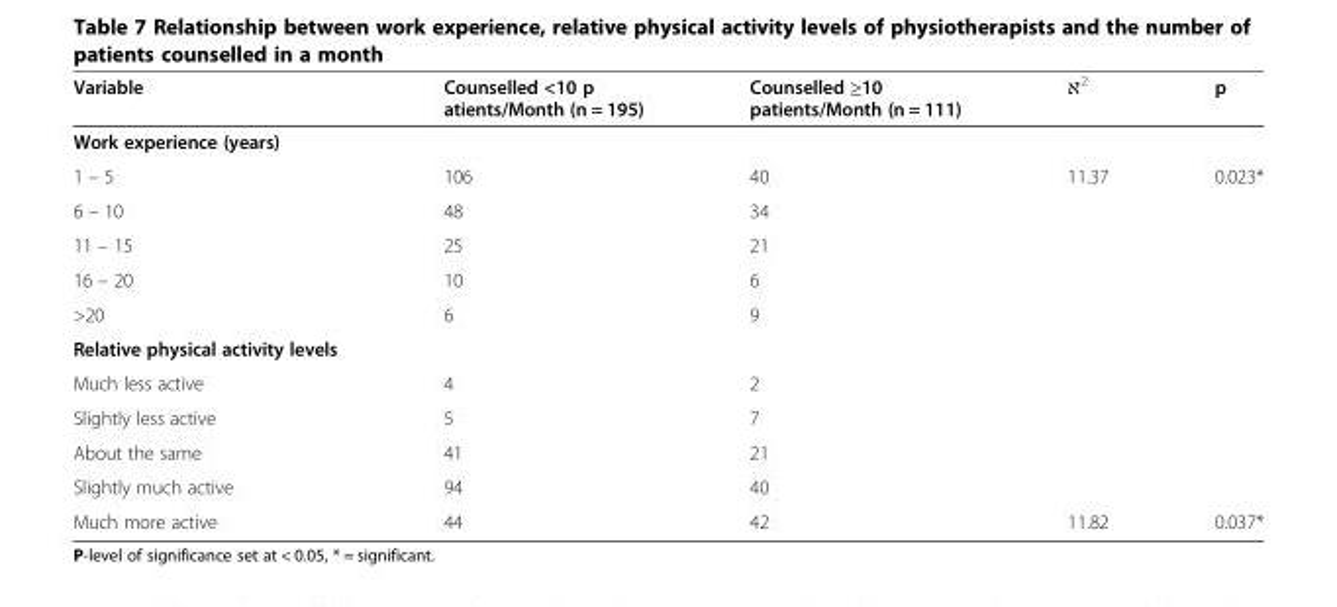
<table><thead><tr><td>Variable</td><td>Counselled &lt;10 p atients/Month (n = 195)</td><td>Counselled ≥10 patients/Month (n = 111)</td><td>ℵ<sup>2</sup></td><td>p</td></tr></thead><tbody><tr><td colspan="5">Work experience (years)</td></tr><tr><td>1 – 5</td><td>106</td><td>40</td><td>11.37</td><td>0.023*</td></tr><tr><td>6 – 10</td><td>48</td><td>34</td><td></td><td></td></tr><tr><td>11 – 15</td><td>25</td><td>21</td><td></td><td></td></tr><tr><td>16 – 20</td><td>10</td><td>6</td><td></td><td></td></tr><tr><td>&gt;20</td><td>6</td><td>9</td><td></td><td></td></tr><tr><td colspan="5">Relative physical activity levels</td></tr><tr><td>Much less active</td><td>4</td><td>2</td><td></td><td></td></tr><tr><td>Slightly less active</td><td>5</td><td>7</td><td></td><td></td></tr><tr><td>About the same</td><td>41</td><td>21</td><td></td><td></td></tr><tr><td>Slightly much active</td><td>94</td><td>40</td><td></td><td></td></tr><tr><td>Much more active</td><td>44</td><td>42</td><td>11.82</td><td>0.037*</td></tr></tbody></table>